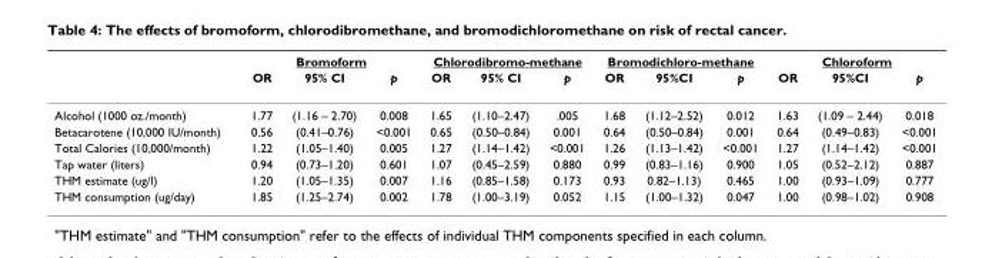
<table><thead><tr><td rowspan="2"></td><td colspan="3">Bromoform</td><td colspan="3">Chlorodibromo-methane</td><td colspan="3">Bromodichloro-methane</td><td colspan="3">Chloroform</td></tr><tr><td>OR</td><td>95% CI</td><td>p</td><td>OR</td><td>95% CI</td><td>p</td><td>OR</td><td>95%CI</td><td>p</td><td>OR</td><td>95%CI</td><td>p</td></tr></thead><tbody><tr><td>Alcohol (1000 oz./month)</td><td>1.77</td><td>(1.16 – 2.70)</td><td>0.008</td><td>1.65</td><td>(1.10–2.47)</td><td>.005</td><td>1.68</td><td>(1.12–2.52)</td><td>0.012</td><td>1.63</td><td>(1.09 – 2.44)</td><td>0.018</td></tr><tr><td>Betacarotene (10,000 IU/month)</td><td>0.56</td><td>(0.41–0.76)</td><td>&lt;0.001</td><td>0.65</td><td>(0.50–0.84)</td><td>0.001</td><td>0.64</td><td>(0.50–0.84)</td><td>0.001</td><td>0.64</td><td>(0.49–0.83)</td><td>&lt;0.001</td></tr><tr><td>Total Calories (10,000/month)</td><td>1.22</td><td>(1.05–1.40)</td><td>0.005</td><td>1.27</td><td>(1.14–1.42)</td><td>&lt;0.001</td><td>1.26</td><td>(1.13–1.42)</td><td>&lt;0.001</td><td>1.27</td><td>(1.14–1.42)</td><td>&lt;0.001</td></tr><tr><td>Tap water (liters)</td><td>0.94</td><td>(0.73–1.20)</td><td>0.601</td><td>1.07</td><td>(0.45–2.59)</td><td>0.880</td><td>0.99</td><td>(0.83–1.16)</td><td>0.900</td><td>1.05</td><td>(0.52–2.12)</td><td>0.887</td></tr><tr><td>THM estimate (ug/l)</td><td>1.20</td><td>(1.05–1.35)</td><td>0.007</td><td>1.16</td><td>(0.85–1.58)</td><td>0.173</td><td>0.93</td><td>0.82–1.13)</td><td>0.465</td><td>1.00</td><td>(0.93–1.09)</td><td>0.777</td></tr><tr><td>THM consumption (ug/day)</td><td>1.85</td><td>(1.25–2.74)</td><td>0.002</td><td>1.78</td><td>(1.00–3.19)</td><td>0.052</td><td>1.15</td><td>(1.00–1.32)</td><td>0.047</td><td>1.00</td><td>(0.98–1.02)</td><td>0.908</td></tr></tbody></table>